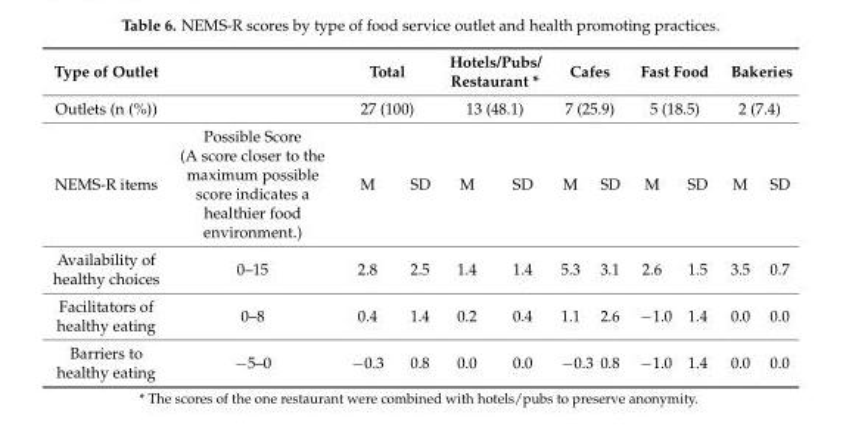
<table><thead><tr><td rowspan="3">Type of Outlet Outlets (n (%)) NEMS-R items</td><td rowspan="3">Possible Score (A score closer to the maximum possible score indicates a healthier food environment.)</td><td rowspan="2" colspan="2">Total 27 (100)</td><td rowspan="2" colspan="2">Hotels/Pubs/ Restaurant * 13 (48.1)</td><td rowspan="2" colspan="2">Cafes 7 (25.9)</td><td rowspan="2" colspan="2">Fast Food 5 (18.5)</td><td rowspan="2" colspan="2">Bakeries 2 (7.4)</td></tr><tr></tr><tr><td>M</td><td>SD</td><td>M</td><td>SD</td><td>M</td><td>SD</td><td>M</td><td>SD</td><td>M</td><td>SD</td></tr></thead><tbody><tr><td>Availability of healthy choices</td><td>0–15</td><td>2.8</td><td>2.5</td><td>1.4</td><td>1.4</td><td>5.3</td><td>3.1</td><td>2.6</td><td>1.5</td><td>3.5</td><td>0.7</td></tr><tr><td>Facilitators of healthy eating</td><td>0–8</td><td>0.4</td><td>1.4</td><td>0.2</td><td>0.4</td><td>1.1</td><td>2.6</td><td>−1.0</td><td>1.4</td><td>0.0</td><td>0.0</td></tr><tr><td>Barriers to healthy eating</td><td>−5–0</td><td>−0.3</td><td>0.8</td><td>0.0</td><td>0.0</td><td>−0.3</td><td>0.8</td><td>−1.0</td><td>1.4</td><td>0.0</td><td>0.0</td></tr></tbody></table>